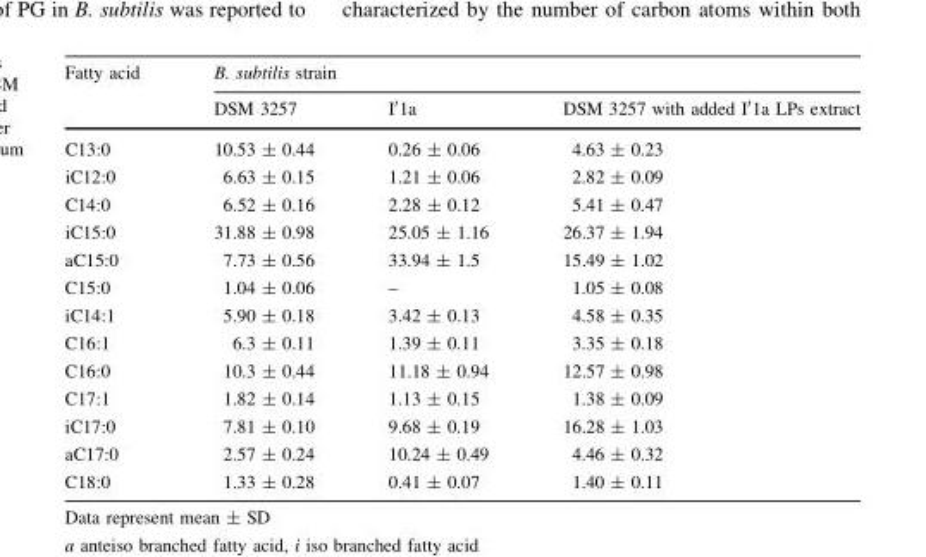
<table><thead><tr><td rowspan="2">Fatty acid</td><td colspan="3">B. subtilis strain</td></tr><tr><td>DSM 3257</td><td>I′1a</td><td>DSM 3257 with added I′1a LPs extract</td></tr></thead><tbody><tr><td>C13:0</td><td>10.53 ± 0.44</td><td>0.26 ± 0.06</td><td>4.63 ± 0.23</td></tr><tr><td>iC12:0</td><td>6.63 ± 0.15</td><td>1.21 ± 0.06</td><td>2.82 ± 0.09</td></tr><tr><td>C14:0</td><td>6.52 ± 0.16</td><td>2.28 ± 0.12</td><td>5.41 ± 0.47</td></tr><tr><td>iC15:0</td><td>31.88 ± 0.98</td><td>25.05 ± 1.16</td><td>26.37 ± 1.94</td></tr><tr><td>aC15:0</td><td>7.73 ± 0.56</td><td>33.94 ± 1.5</td><td>15.49 ± 1.02</td></tr><tr><td>C15:0</td><td>1.04 ± 0.06</td><td>–</td><td>1.05 ± 0.08</td></tr><tr><td>iC14:1</td><td>5.90 ± 0.18</td><td>3.42 ± 0.13</td><td>4.58 ± 0.35</td></tr><tr><td>C16:1</td><td>6.3 ± 0.11</td><td>1.39 ± 0.11</td><td>3.35 ± 0.18</td></tr><tr><td>C16:0</td><td>10.3 ± 0.44</td><td>11.18 ± 0.94</td><td>12.57 ± 0.98</td></tr><tr><td>C17:1</td><td>1.82 ± 0.14</td><td>1.13 ± 0.15</td><td>1.38 ± 0.09</td></tr><tr><td>iC17:0</td><td>7.81 ± 0.10</td><td>9.68 ± 0.19</td><td>16.28 ± 1.03</td></tr><tr><td>aC17:0</td><td>2.57 ± 0.24</td><td>10.24 ± 0.49</td><td>4.46 ± 0.32</td></tr><tr><td>C18:0</td><td>1.33 ± 0.28</td><td>0.41 ± 0.07</td><td>1.40 ± 0.11</td></tr></tbody></table>